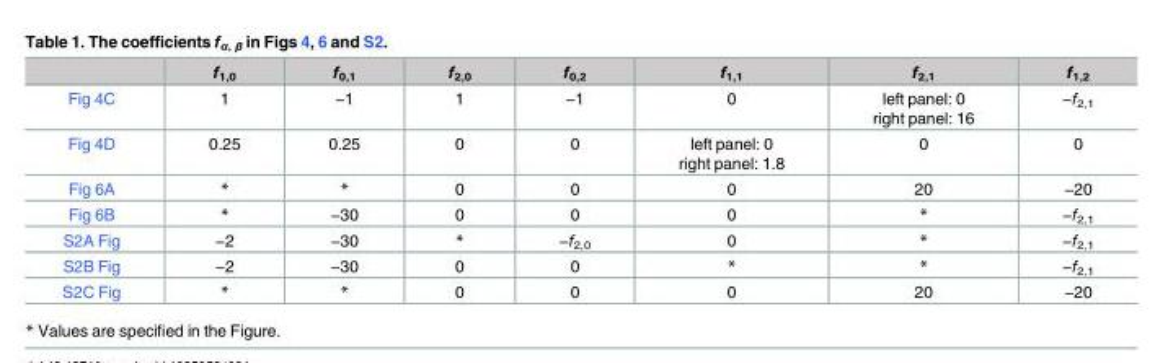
<table><thead><tr><td></td><td>f<sub>1,0</sub></td><td>f<sub>0,1</sub></td><td>f<sub>2,0</sub></td><td>f<sub>0,2</sub></td><td>f<sub>1,1</sub></td><td>f<sub>2,1</sub></td><td>f<sub>1,2</sub></td></tr></thead><tbody><tr><td>Fig 4C</td><td>1</td><td>−1</td><td>1</td><td>−1</td><td>0</td><td>left panel: 0 right panel: 16</td><td>−f<sub>2,1</sub></td></tr><tr><td>Fig 4D</td><td>0.25</td><td>0.25</td><td>0</td><td>0</td><td>left panel: 0 right panel: 1.8</td><td>0</td><td>0</td></tr><tr><td>Fig 6A</td><td>*</td><td>*</td><td>0</td><td>0</td><td>0</td><td>20</td><td>−20</td></tr><tr><td>Fig 6B</td><td>*</td><td>−30</td><td>0</td><td>0</td><td>0</td><td>*</td><td>−f<sub>2,1</sub></td></tr><tr><td>S2A Fig</td><td>−2</td><td>−30</td><td>*</td><td>−f<sub>2,0</sub></td><td>0</td><td>*</td><td>−f<sub>2,1</sub></td></tr><tr><td>S2B Fig</td><td>−2</td><td>−30</td><td>0</td><td>0</td><td>*</td><td>*</td><td>−f<sub>2,1</sub></td></tr><tr><td>S2C Fig</td><td>*</td><td>*</td><td>0</td><td>0</td><td>0</td><td>20</td><td>−20</td></tr></tbody></table>